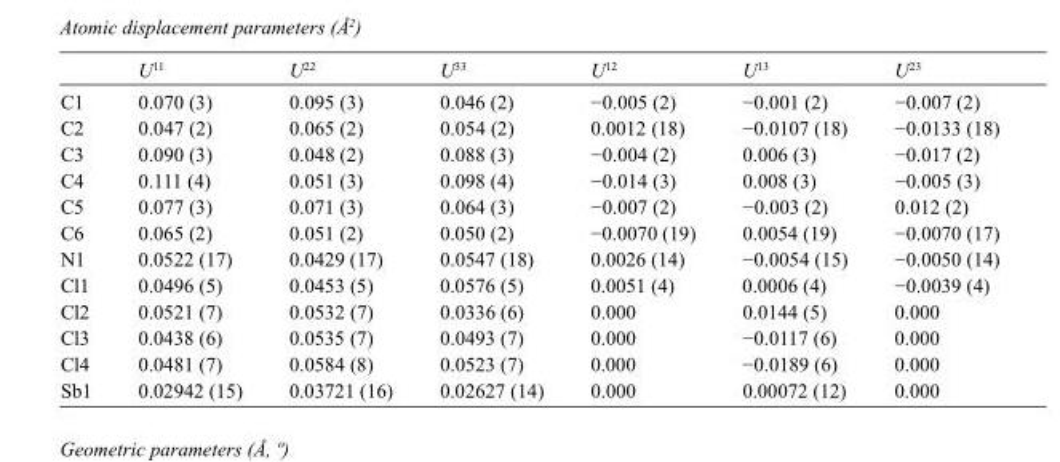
<table><thead><tr><td></td><td>U<sup>11</sup></td><td>U<sup>22</sup></td><td>U<sup>33</sup></td><td>U<sup>12</sup></td><td>U<sup>13</sup></td><td>U<sup>23</sup></td></tr></thead><tbody><tr><td>C1</td><td>0.070 (3)</td><td>0.095 (3)</td><td>0.046 (2)</td><td>−0.005 (2)</td><td>−0.001 (2)</td><td>−0.007 (2)</td></tr><tr><td>C2</td><td>0.047 (2)</td><td>0.065 (2)</td><td>0.054 (2)</td><td>0.0012 (18)</td><td>−0.0107 (18)</td><td>−0.0133 (18)</td></tr><tr><td>C3</td><td>0.090 (3)</td><td>0.048 (2)</td><td>0.088 (3)</td><td>−0.004 (2)</td><td>0.006 (3)</td><td>−0.017 (2)</td></tr><tr><td>C4</td><td>0.111 (4)</td><td>0.051 (3)</td><td>0.098 (4)</td><td>−0.014 (3)</td><td>0.008 (3)</td><td>−0.005 (3)</td></tr><tr><td>C5</td><td>0.077 (3)</td><td>0.071 (3)</td><td>0.064 (3)</td><td>−0.007 (2)</td><td>−0.003 (2)</td><td>0.012 (2)</td></tr><tr><td>C6</td><td>0.065 (2)</td><td>0.051 (2)</td><td>0.050 (2)</td><td>−0.0070 (19)</td><td>0.0054 (19)</td><td>−0.0070 (17)</td></tr><tr><td>N1</td><td>0.0522 (17)</td><td>0.0429 (17)</td><td>0.0547 (18)</td><td>0.0026 (14)</td><td>−0.0054 (15)</td><td>−0.0050 (14)</td></tr><tr><td>Cl1</td><td>0.0496 (5)</td><td>0.0453 (5)</td><td>0.0576 (5)</td><td>0.0051 (4)</td><td>0.0006 (4)</td><td>−0.0039 (4)</td></tr><tr><td>Cl2</td><td>0.0521 (7)</td><td>0.0532 (7)</td><td>0.0336 (6)</td><td>0.000</td><td>0.0144 (5)</td><td>0.000</td></tr><tr><td>Cl3</td><td>0.0438 (6)</td><td>0.0535 (7)</td><td>0.0493 (7)</td><td>0.000</td><td>−0.0117 (6)</td><td>0.000</td></tr><tr><td>Cl4</td><td>0.0481 (7)</td><td>0.0584 (8)</td><td>0.0523 (7)</td><td>0.000</td><td>−0.0189 (6)</td><td>0.000</td></tr><tr><td>Sb1</td><td>0.02942 (15)</td><td>0.03721 (16)</td><td>0.02627 (14)</td><td>0.000</td><td>0.00072 (12)</td><td>0.000</td></tr></tbody></table>